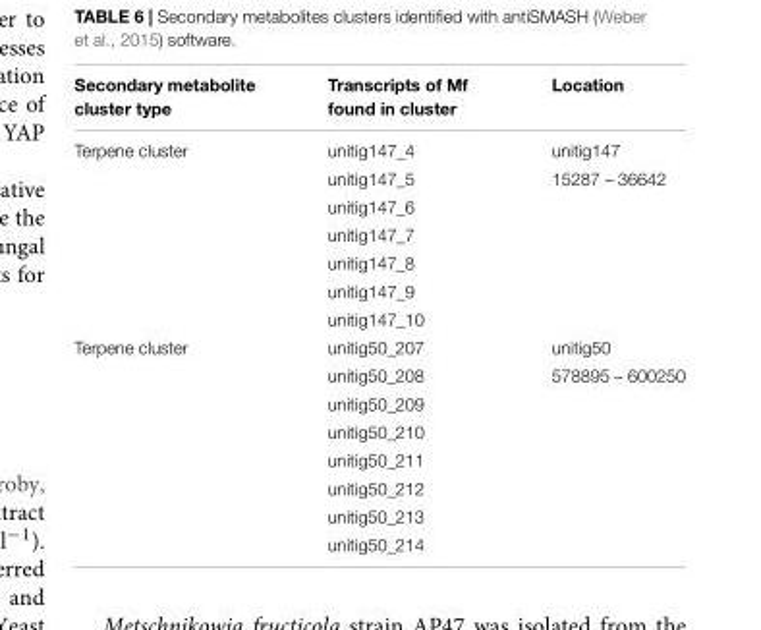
<table><thead><tr><td>Secondary metabolite cluster type</td><td>Transcripts of Mf found in cluster</td><td>Location</td></tr></thead><tbody><tr><td rowspan="7">Terpene cluster</td><td>unitig147_4</td><td>unitig147</td></tr><tr><td>unitig147_5</td><td>15287 – 36642</td></tr><tr><td>unitig147_6</td><td></td></tr><tr><td>unitig147_7</td><td></td></tr><tr><td>unitig147_8</td><td></td></tr><tr><td>unitig147_9</td><td></td></tr><tr><td>unitig147_10</td><td></td></tr><tr><td rowspan="8">Terpene cluster</td><td>unitig50_207</td><td>unitig50</td></tr><tr><td>unitig50_208</td><td>578895 – 600250</td></tr><tr><td>unitig50_209</td><td></td></tr><tr><td>unitig50_210</td><td></td></tr><tr><td>unitig50_211</td><td></td></tr><tr><td>unitig50_212</td><td></td></tr><tr><td>unitig50_213</td><td></td></tr><tr><td>unitig50_214</td><td></td></tr></tbody></table>